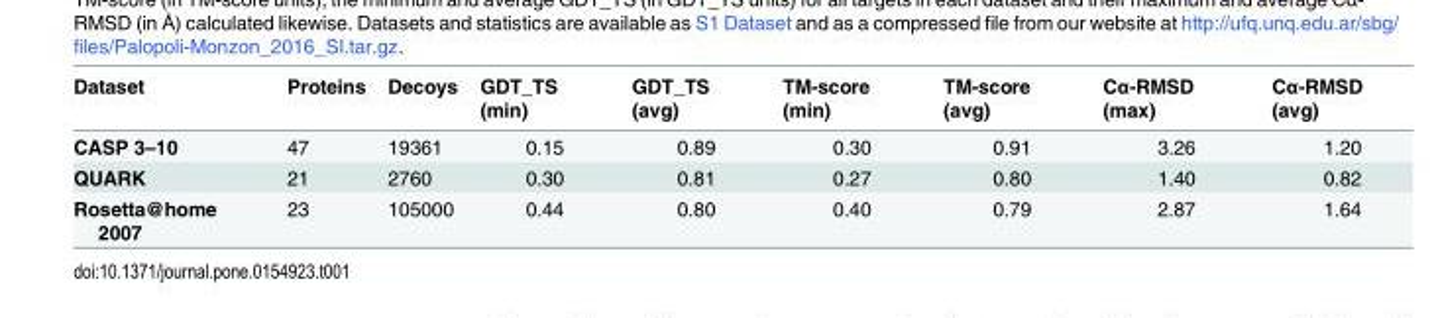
<table><thead><tr><td>Dataset</td><td>Proteins</td><td>Decoys</td><td>GDT_TS (min)</td><td>GDT_TS (avg)</td><td>TM-score (min)</td><td>TM-score (avg)</td><td>Cα-RMSD (max)</td><td>Cα-RMSD (avg)</td></tr></thead><tbody><tr><td>CASP 3–10</td><td>47</td><td>19361</td><td>0.15</td><td>0.89</td><td>0.30</td><td>0.91</td><td>3.26</td><td>1.20</td></tr><tr><td>QUARK</td><td>21</td><td>2760</td><td>0.30</td><td>0.81</td><td>0.27</td><td>0.80</td><td>1.40</td><td>0.82</td></tr><tr><td>Rosetta@home 2007</td><td>23</td><td>105000</td><td>0.44</td><td>0.80</td><td>0.40</td><td>0.79</td><td>2.87</td><td>1.64</td></tr></tbody></table>